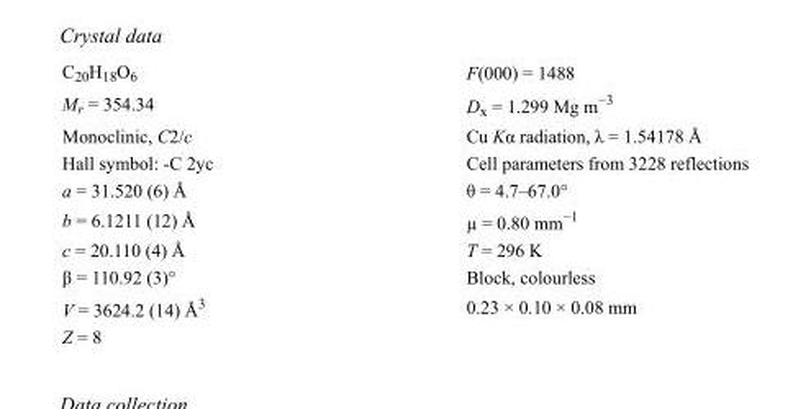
<table><tbody><tr><td>C<sub>20</sub>H<sub>18</sub>O<sub>6</sub></td><td>F(000) = 1488</td></tr><tr><td>M<sub>r</sub> = 354.34</td><td>D<sub>x</sub> = 1.299 Mg m<sup>−3</sup></td></tr><tr><td>Monoclinic, C2/c</td><td>Cu Kα radiation, λ = 1.54178 Å</td></tr><tr><td>Hall symbol: -C 2yc</td><td>Cell parameters from 3228 reflections</td></tr><tr><td>a = 31.520 (6) Å</td><td>θ = 4.7–67.0°</td></tr><tr><td>b = 6.1211 (12) Å</td><td>µ = 0.80 mm<sup>−1</sup></td></tr><tr><td>c = 20.110 (4) Å</td><td>T = 296 K</td></tr><tr><td>β = 110.92 (3)°</td><td>Block, colourless</td></tr><tr><td>V = 3624.2 (14) Å<sup>3</sup></td><td>0.23 × 0.10 × 0.08 mm</td></tr><tr><td>Z = 8</td><td></td></tr></tbody></table>